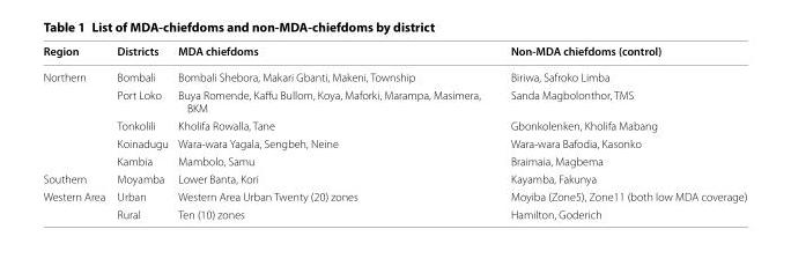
<table><thead><tr><td>Region</td><td>Districts</td><td>MDA chiefdoms</td><td>Non-MDA chiefdoms (control)</td></tr></thead><tbody><tr><td rowspan="5">Northern</td><td>Bombali</td><td>Bombali Shebora, Makari Gbanti, Makeni, Township</td><td>Biriwa, Safroko Limba</td></tr><tr><td>Port Loko</td><td>Buya Romende, Kaffu Bullom, Koya, Maforki, Marampa, Masimera, BKM</td><td>Sanda Magbolonthor, TMS</td></tr><tr><td>Tonkolili</td><td>Kholifa Rowalla, Tane</td><td>Gbonkolenken, Kholifa Mabang</td></tr><tr><td>Koinadugu</td><td>Wara‑wara Yagala, Sengbeh, Neine</td><td>Wara‑wara Bafodia, Kasonko</td></tr><tr><td>Kambia</td><td>Mambolo, Samu</td><td>Braimaia, Magbema</td></tr><tr><td>Southern</td><td>Moyamba</td><td>Lower Banta, Kori</td><td>Kayamba, Fakunya</td></tr><tr><td rowspan="2">Western Area</td><td>Urban</td><td>Western Area Urban Twenty (20) zones</td><td>Moyiba (Zone5), Zone11 (both low MDA coverage)</td></tr><tr><td>Rural</td><td>Ten (10) zones</td><td>Hamilton, Goderich</td></tr></tbody></table>